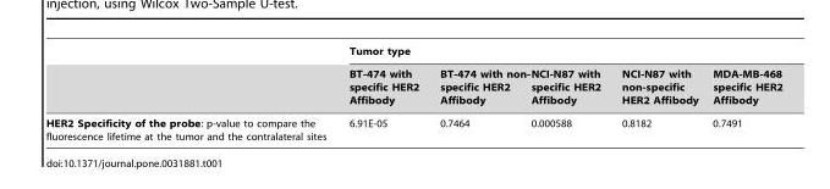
<table><thead><tr><td rowspan="2"></td><td colspan="5">Tumor type</td></tr><tr><td>BT-474 with specific HER2 Affibody</td><td>BT-474 with non- specific HER2 Affibody</td><td>NCI-N87 with specific HER2 Affibody</td><td>NCI-N87 with non-specific HER2 Affibody</td><td>MDA-MB-468 specific HER2 Affibody</td></tr></thead><tbody><tr><td>HER2 Specificity of the probe: p-value to compare the fluorescence lifetime at the tumor and the contralateral sites</td><td>6.91E-05</td><td>0.7464</td><td>0.000588</td><td>0.8182</td><td>0.7491</td></tr></tbody></table>